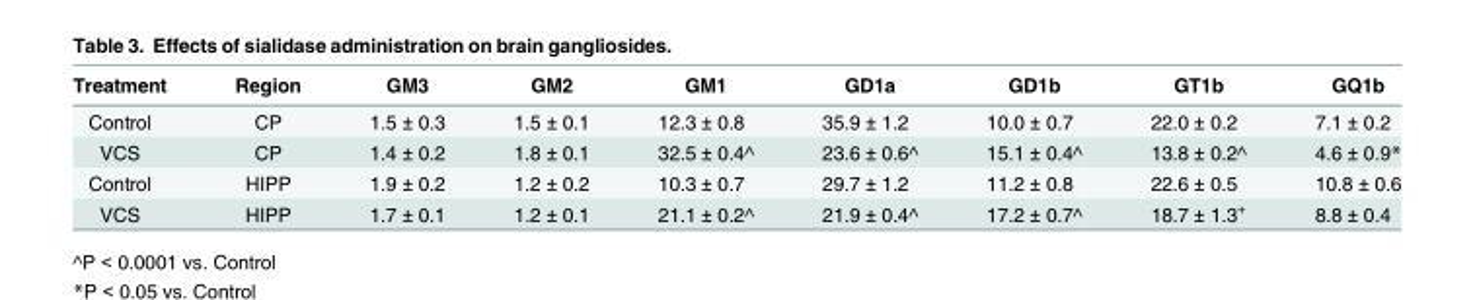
<table><thead><tr><td>Treatment</td><td>Region</td><td>GM3</td><td>GM2</td><td>GM1</td><td>GD1a</td><td>GD1b</td><td>GT1b</td><td>GQ1b</td></tr></thead><tbody><tr><td>Control</td><td>CP</td><td>1.5 ± 0.3</td><td>1.5 ± 0.1</td><td>12.3 ± 0.8</td><td>35.9 ± 1.2</td><td>10.0 ± 0.7</td><td>22.0 ± 0.2</td><td>7.1 ± 0.2</td></tr><tr><td>VCS</td><td>CP</td><td>1.4 ± 0.2</td><td>1.8 ± 0.1</td><td>32.5 ± 0.4^</td><td>23.6 ± 0.6^</td><td>15.1 ± 0.4^</td><td>13.8 ± 0.2^</td><td>4.6 ± 0.9*</td></tr><tr><td>Control</td><td>HIPP</td><td>1.9 ± 0.2</td><td>1.2 ± 0.2</td><td>10.3 ± 0.7</td><td>29.7 ± 1.2</td><td>11.2 ± 0.8</td><td>22.6 ± 0.5</td><td>10.8 ± 0.6</td></tr><tr><td>VCS</td><td>HIPP</td><td>1.7 ± 0.1</td><td>1.2 ± 0.1</td><td>21.1 ± 0.2^</td><td>21.9 ± 0.4^</td><td>17.2 ± 0.7^</td><td>18.7 ± 1.3<sup>+</sup></td><td>8.8 ± 0.4</td></tr></tbody></table>